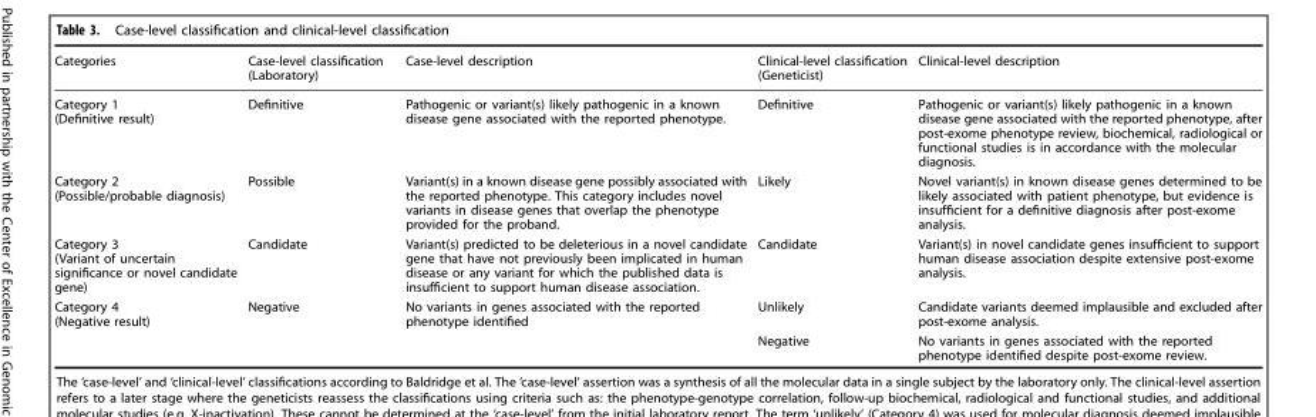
<table><thead><tr><td>Categories</td><td>Case-level classification (Laboratory)</td><td>Case-level description</td><td>Clinical-level classification (Geneticist)</td><td>Clinical-level description</td></tr></thead><tbody><tr><td>Category 1 (Definitive result)</td><td>Definitive</td><td>Pathogenic or variant(s) likely pathogenic in a known disease gene associated with the reported phenotype.</td><td>Definitive</td><td>Pathogenic or variant(s) likely pathogenic in a known disease gene associated with the reported phenotype, after post-exome phenotype review, biochemical, radiological or functional studies is in accordance with the molecular diagnosis.</td></tr><tr><td>Category 2 (Possible/probable diagnosis)</td><td>Possible</td><td>Variant(s) in a known disease gene possibly associated with the reported phenotype. This category includes novel variants in disease genes that overlap the phenotype provided for the proband.</td><td>Likely</td><td>Novel variant(s) in known disease genes determined to be likely associated with patient phenotype, but evidence is insufficient for a definitive diagnosis after post-exome analysis.</td></tr><tr><td>Category 3 (Variant of uncertain significance or novel candidate gene)</td><td>Candidate</td><td>Variant(s) predicted to be deleterious in a novel candidate gene that have not previously been implicated in human disease or any variant for which the published data is insufficient to support human disease association.</td><td>Candidate</td><td>Variant(s) in novel candidate genes insufficient to support human disease association despite extensive post-exome analysis.</td></tr><tr><td rowspan="2">Category 4 (Negative result)</td><td>Negative</td><td>No variants in genes associated with the reported phenotype identified</td><td>Unlikely</td><td>Candidate variants deemed implausible and excluded after post-exome analysis.</td></tr><tr><td></td><td></td><td>Negative</td><td>No variants in genes associated with the reported phenotype identified despite post-exome review.</td></tr></tbody></table>